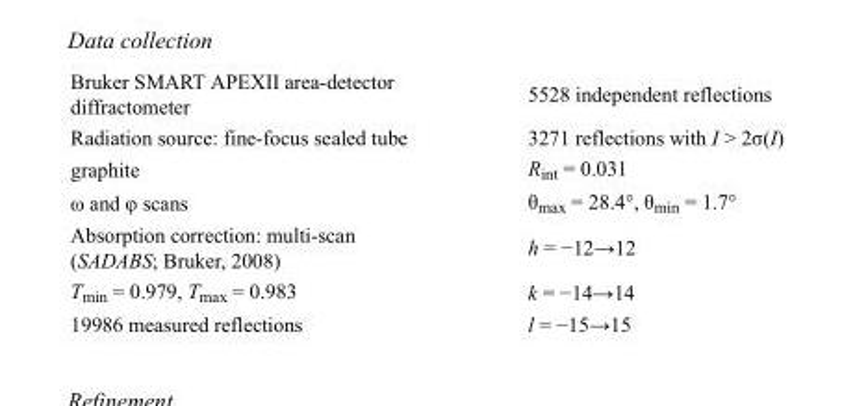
<table><tbody><tr><td>Bruker SMART APEXII area-detector diffractometer</td><td>5528 independent reflections</td></tr><tr><td>Radiation source: fine-focus sealed tube</td><td>3271 reflections with I &gt; 2σ(I)</td></tr><tr><td>graphite</td><td>R<sub>int</sub> = 0.031</td></tr><tr><td>ω and φ scans</td><td>θ<sub>max</sub> = 28.4°, θ<sub>min</sub> = 1.7°</td></tr><tr><td>Absorption correction: multi-scan (SADABS; Bruker, 2008)</td><td>h = −12→12</td></tr><tr><td>T<sub>min</sub> = 0.979, T<sub>max</sub> = 0.983</td><td>k = −14→14</td></tr><tr><td>19986 measured reflections</td><td>l = −15→15</td></tr></tbody></table>